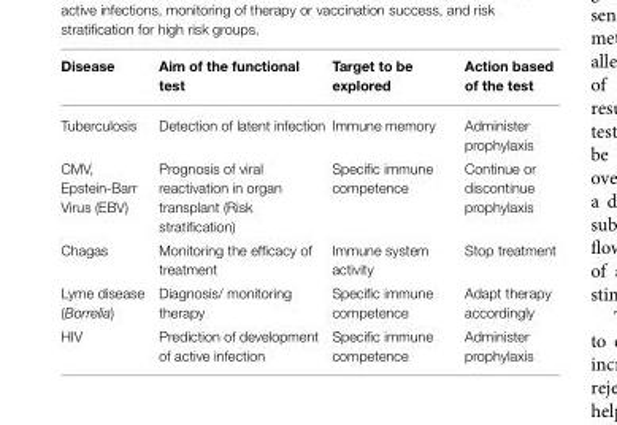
<table><thead><tr><td>Disease</td><td>Aim of the functional test</td><td>Target to be explored</td><td>Action based of the test</td></tr></thead><tbody><tr><td>Tuberculosis</td><td>Detection of latent infection</td><td>Immune memory</td><td>Administer prophylaxis</td></tr><tr><td>CMV, Epstein-Barr Virus (EBV)</td><td>Prognosis of viral reactivation in organ transplant (Risk stratification)</td><td>Specific immune competence</td><td>Continue or discontinue prophylaxis</td></tr><tr><td>Chagas</td><td>Monitoring the efficacy of treatment</td><td>Immune system activity</td><td>Stop treatment</td></tr><tr><td>Lyme disease (Borrelia)</td><td>Diagnosis/ monitoring therapy</td><td>Specific immune competence</td><td>Adapt therapy accordingly</td></tr><tr><td>HIV</td><td>Prediction of development of active infection</td><td>Specific immune competence</td><td>Administer prophylaxis</td></tr></tbody></table>